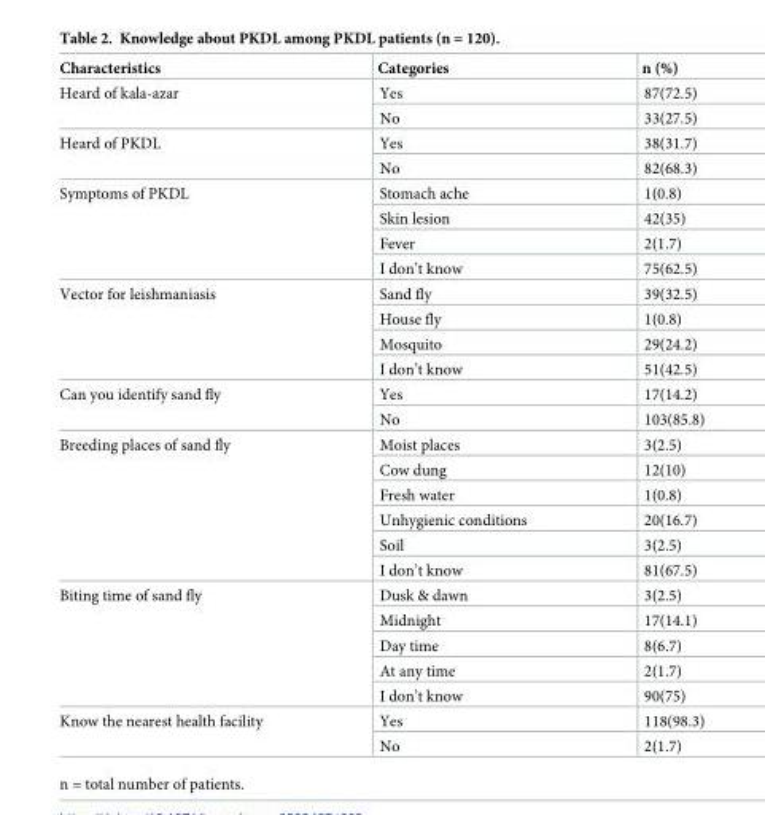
<table><thead><tr><td>Characteristics</td><td>Categories</td><td>n (%)</td></tr></thead><tbody><tr><td rowspan="2">Heard of kala-azar</td><td>Yes</td><td>87(72.5)</td></tr><tr><td>No</td><td>33(27.5)</td></tr><tr><td rowspan="2">Heard of PKDL</td><td>Yes</td><td>38(31.7)</td></tr><tr><td>No</td><td>82(68.3)</td></tr><tr><td rowspan="4">Symptoms of PKDL</td><td>Stomach ache</td><td>1(0.8)</td></tr><tr><td>Skin lesion</td><td>42(35)</td></tr><tr><td>Fever</td><td>2(1.7)</td></tr><tr><td>I don’t know</td><td>75(62.5)</td></tr><tr><td rowspan="4">Vector for leishmaniasis</td><td>Sand fly</td><td>39(32.5)</td></tr><tr><td>House fly</td><td>1(0.8)</td></tr><tr><td>Mosquito</td><td>29(24.2)</td></tr><tr><td>I don’t know</td><td>51(42.5)</td></tr><tr><td rowspan="2">Can you identify sand fly</td><td>Yes</td><td>17(14.2)</td></tr><tr><td>No</td><td>103(85.8)</td></tr><tr><td rowspan="6">Breeding places of sand fly</td><td>Moist places</td><td>3(2.5)</td></tr><tr><td>Cow dung</td><td>12(10)</td></tr><tr><td>Fresh water</td><td>1(0.8)</td></tr><tr><td>Unhygienic conditions</td><td>20(16.7)</td></tr><tr><td>Soil</td><td>3(2.5)</td></tr><tr><td>I don’t know</td><td>81(67.5)</td></tr><tr><td rowspan="5">Biting time of sand fly</td><td>Dusk &amp; dawn</td><td>3(2.5)</td></tr><tr><td>Midnight</td><td>17(14.1)</td></tr><tr><td>Day time</td><td>8(6.7)</td></tr><tr><td>At any time</td><td>2(1.7)</td></tr><tr><td>I don’t know</td><td>90(75)</td></tr><tr><td rowspan="2">Know the nearest health facility</td><td>Yes</td><td>118(98.3)</td></tr><tr><td>No</td><td>2(1.7)</td></tr></tbody></table>